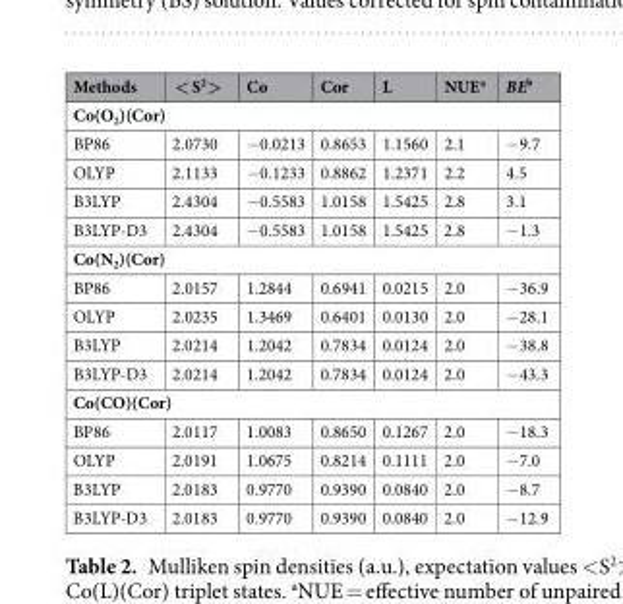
<table><thead><tr><td>Methods</td><td>&lt; S<sup>2</sup>&gt;</td><td>Co</td><td>Cor</td><td>L</td><td>NUE<sup>a</sup></td><td>BE<sup>b</sup></td></tr></thead><tbody><tr><td colspan="7">Co(O<sub>2</sub>)(Cor)</td></tr><tr><td>BP86</td><td>2.0730</td><td>−0.0213</td><td>0.8653</td><td>1.1560</td><td>2.1</td><td>−9.7</td></tr><tr><td>OLYP</td><td>2.1133</td><td>−0.1233</td><td>0.8862</td><td>1.2371</td><td>2.2</td><td>4.5</td></tr><tr><td>B3LYP</td><td>2.4304</td><td>−0.5583</td><td>1.0158</td><td>1.5425</td><td>2.8</td><td>3.1</td></tr><tr><td>B3LYP-D3</td><td>2.4304</td><td>−0.5583</td><td>1.0158</td><td>1.5425</td><td>2.8</td><td>−1.3</td></tr><tr><td colspan="7">Co(N<sub>2</sub>)(Cor)</td></tr><tr><td>BP86</td><td>2.0157</td><td>1.2844</td><td>0.6941</td><td>0.0215</td><td>2.0</td><td>−36.9</td></tr><tr><td>OLYP</td><td>2.0235</td><td>1.3469</td><td>0.6401</td><td>0.0130</td><td>2.0</td><td>−28.1</td></tr><tr><td>B3LYP</td><td>2.0214</td><td>1.2042</td><td>0.7834</td><td>0.0124</td><td>2.0</td><td>−38.8</td></tr><tr><td>B3LYP-D3</td><td>2.0214</td><td>1.2042</td><td>0.7834</td><td>0.0124</td><td>2.0</td><td>−43.3</td></tr><tr><td colspan="7">Co(CO)(Cor)</td></tr><tr><td>BP86</td><td>2.0117</td><td>1.0083</td><td>0.8650</td><td>0.1267</td><td>2.0</td><td>−18.3</td></tr><tr><td>OLYP</td><td>2.0191</td><td>1.0675</td><td>0.8214</td><td>0.1111</td><td>2.0</td><td>−7.0</td></tr><tr><td>B3LYP</td><td>2.0183</td><td>0.9770</td><td>0.9390</td><td>0.0840</td><td>2.0</td><td>−8.7</td></tr><tr><td>B3LYP-D3</td><td>2.0183</td><td>0.9770</td><td>0.9390</td><td>0.0840</td><td>2.0</td><td>−12.9</td></tr></tbody></table>